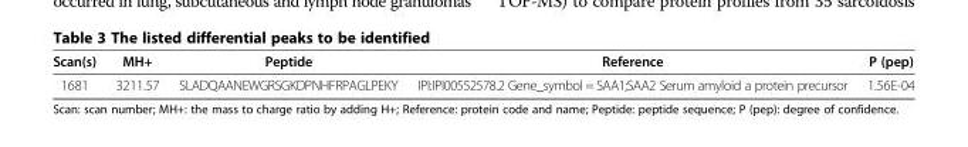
<table><thead><tr><td>Scan(s)</td><td>MH+</td><td>Peptide</td><td>Reference</td><td>P (pep)</td></tr></thead><tbody><tr><td>1681</td><td>3211.57</td><td>SLADQAANEWGRSGKDPNHFRPAGLPEKY</td><td>IPI:IPI00552578.2 Gene_symbol = SAA1;SAA2 Serum amyloid a protein precursor</td><td>1.56E-04</td></tr></tbody></table>